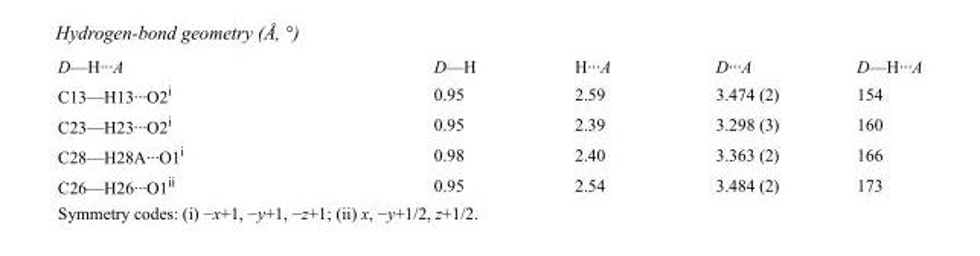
<table><tbody><tr><td>D—H···A</td><td>D—H</td><td>H···A</td><td>D···A</td><td>D—H···A</td></tr><tr><td>C13—H13···O2<sup>i</sup></td><td>0.95</td><td>2.59</td><td>3.474 (2)</td><td>154</td></tr><tr><td>C23—H23···O2<sup>i</sup></td><td>0.95</td><td>2.39</td><td>3.298 (3)</td><td>160</td></tr><tr><td>C28—H28A···O1<sup>i</sup></td><td>0.98</td><td>2.40</td><td>3.363 (2)</td><td>166</td></tr><tr><td>C26—H26···O1<sup>ii</sup></td><td>0.95</td><td>2.54</td><td>3.484 (2)</td><td>173</td></tr></tbody></table>